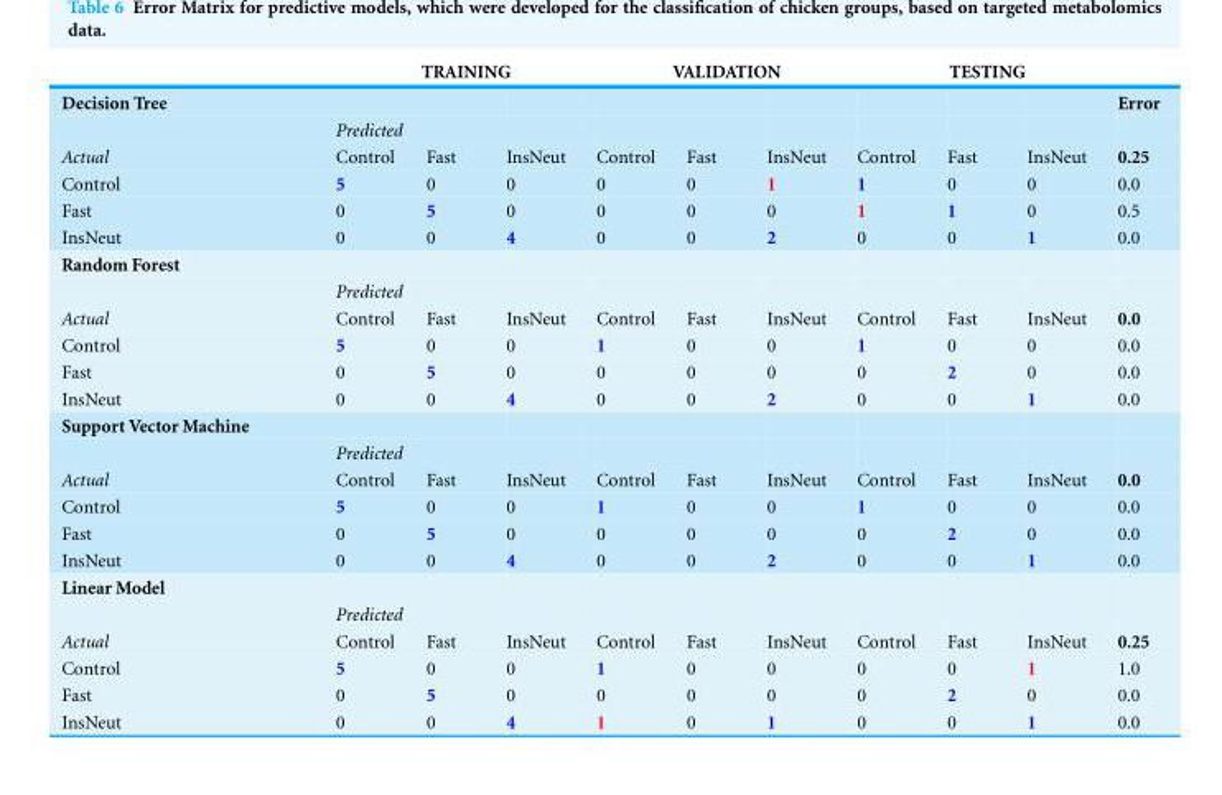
<table><thead><tr><td rowspan="2">Decision Tree</td><td colspan="3">TRAINING</td><td colspan="3">VALIDATION</td><td colspan="3">TESTING</td><td rowspan="2">Error</td></tr><tr><td></td><td></td><td></td><td></td><td></td><td></td><td></td><td></td><td></td></tr></thead><tbody><tr><td></td><td colspan="3">Predicted</td><td></td><td></td><td></td><td></td><td></td><td></td><td></td></tr><tr><td>Actual</td><td>Control</td><td>Fast</td><td>InsNeut</td><td>Control</td><td>Fast</td><td>InsNeut</td><td>Control</td><td>Fast</td><td>InsNeut</td><td>0.25</td></tr><tr><td>Control</td><td>5</td><td>0</td><td>0</td><td>0</td><td>0</td><td>1</td><td>1</td><td>0</td><td>0</td><td>0.0</td></tr><tr><td>Fast</td><td>0</td><td>5</td><td>0</td><td>0</td><td>0</td><td>0</td><td>1</td><td>1</td><td>0</td><td>0.5</td></tr><tr><td>InsNeut</td><td>0</td><td>0</td><td>4</td><td>0</td><td>0</td><td>2</td><td>0</td><td>0</td><td>1</td><td>0.0</td></tr><tr><td colspan="11">Random Forest</td></tr><tr><td></td><td colspan="3">Predicted</td><td></td><td></td><td></td><td></td><td></td><td></td><td></td></tr><tr><td>Actual</td><td>Control</td><td>Fast</td><td>InsNeut</td><td>Control</td><td>Fast</td><td>InsNeut</td><td>Control</td><td>Fast</td><td>InsNeut</td><td>0.0</td></tr><tr><td>Control</td><td>5</td><td>0</td><td>0</td><td>1</td><td>0</td><td>0</td><td>1</td><td>0</td><td>0</td><td>0.0</td></tr><tr><td>Fast</td><td>0</td><td>5</td><td>0</td><td>0</td><td>0</td><td>0</td><td>0</td><td>2</td><td>0</td><td>0.0</td></tr><tr><td>InsNeut</td><td>0</td><td>0</td><td>4</td><td>0</td><td>0</td><td>2</td><td>0</td><td>0</td><td>1</td><td>0.0</td></tr><tr><td colspan="11">Support Vector Machine</td></tr><tr><td></td><td colspan="3">Predicted</td><td></td><td></td><td></td><td></td><td></td><td></td><td></td></tr><tr><td>Actual</td><td>Control</td><td>Fast</td><td>InsNeut</td><td>Control</td><td>Fast</td><td>InsNeut</td><td>Control</td><td>Fast</td><td>InsNeut</td><td>0.0</td></tr><tr><td>Control</td><td>5</td><td>0</td><td>0</td><td>1</td><td>0</td><td>0</td><td>1</td><td>0</td><td>0</td><td>0.0</td></tr><tr><td>Fast</td><td>0</td><td>5</td><td>0</td><td>0</td><td>0</td><td>0</td><td>0</td><td>2</td><td>0</td><td>0.0</td></tr><tr><td>InsNeut</td><td>0</td><td>0</td><td>4</td><td>0</td><td>0</td><td>2</td><td>0</td><td>0</td><td>1</td><td>0.0</td></tr><tr><td colspan="11">Linear Model</td></tr><tr><td></td><td colspan="3">Predicted</td><td></td><td></td><td></td><td></td><td></td><td></td><td></td></tr><tr><td>Actual</td><td>Control</td><td>Fast</td><td>InsNeut</td><td>Control</td><td>Fast</td><td>InsNeut</td><td>Control</td><td>Fast</td><td>InsNeut</td><td>0.25</td></tr><tr><td>Control</td><td>5</td><td>0</td><td>0</td><td>1</td><td>0</td><td>0</td><td>0</td><td>0</td><td>1</td><td>1.0</td></tr><tr><td>Fast</td><td>0</td><td>5</td><td>0</td><td>0</td><td>0</td><td>0</td><td>0</td><td>2</td><td>0</td><td>0.0</td></tr><tr><td>InsNeut</td><td>0</td><td>0</td><td>4</td><td>1</td><td>0</td><td>1</td><td>0</td><td>0</td><td>1</td><td>0.0</td></tr></tbody></table>